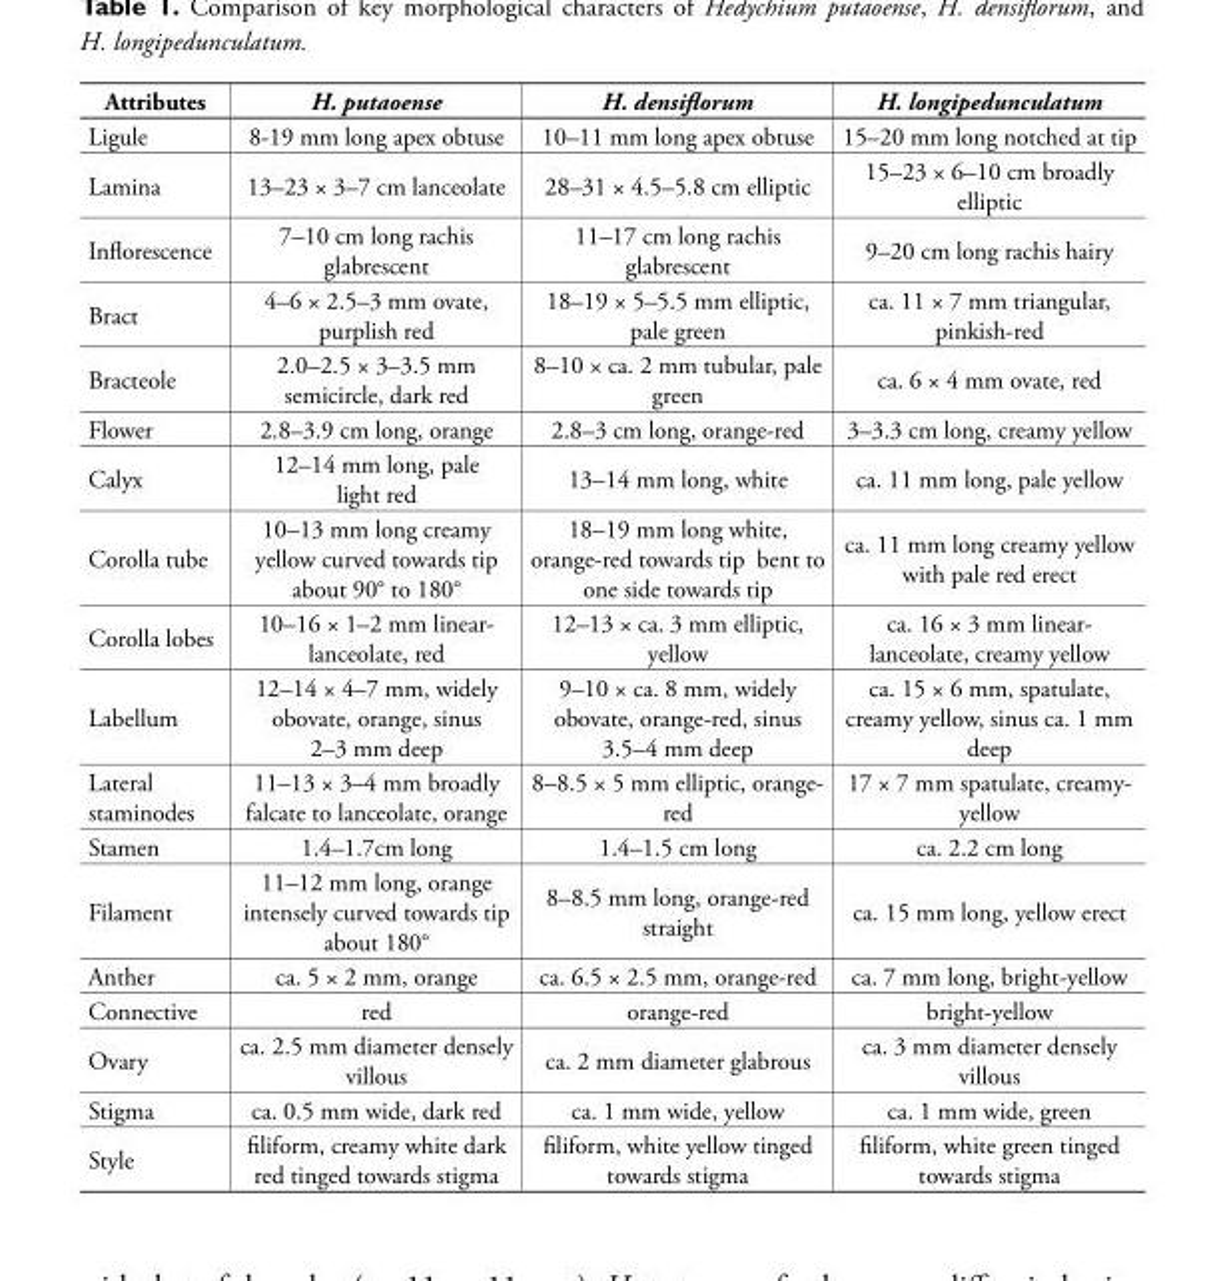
<table><thead><tr><td>Attributes</td><td>H. putaoense</td><td>H. densiflorum</td><td>H. longipedunculatum</td></tr></thead><tbody><tr><td>Ligule</td><td>8-19 mm long apex obtuse</td><td>10–11 mm long apex obtuse</td><td>15–20 mm long notched at tip</td></tr><tr><td>Lamina</td><td>13–23 × 3–7 cm lanceolate</td><td>28–31 × 4.5–5.8 cm elliptic</td><td>15–23 × 6–10 cm broadly elliptic</td></tr><tr><td>Inflorescence</td><td>7–10 cm long rachis glabrescent</td><td>11–17 cm long rachis glabrescent</td><td>9–20 cm long rachis hairy</td></tr><tr><td>Bract</td><td>4–6 × 2.5–3 mm ovate, purplish red</td><td>18–19 × 5–5.5 mm elliptic, pale green</td><td>ca. 11 × 7 mm triangular, pinkish-red</td></tr><tr><td>Bracteole</td><td>2.0–2.5 × 3–3.5 mm semicircle, dark red</td><td>8–10 × ca. 2 mm tubular, pale green</td><td>ca. 6 × 4 mm ovate, red</td></tr><tr><td>Flower</td><td>2.8–3.9 cm long, orange</td><td>2.8–3 cm long, orange-red</td><td>3–3.3 cm long, creamy yellow</td></tr><tr><td>Calyx</td><td>12–14 mm long, pale light red</td><td>13–14 mm long, white</td><td>ca. 11 mm long, pale yellow</td></tr><tr><td>Corolla tube</td><td>10–13 mm long creamy yellow curved towards tip about 90° to 180°</td><td>18–19 mm long white, orange-red towards tip bent to one side towards tip</td><td>ca. 11 mm long creamy yellow with pale red erect</td></tr><tr><td>Corolla lobes</td><td>10–16 × 1–2 mm linear- lanceolate, red</td><td>12–13 × ca. 3 mm elliptic, yellow</td><td>ca. 16 × 3 mm linear- lanceolate, creamy yellow</td></tr><tr><td>Labellum</td><td>12–14 × 4–7 mm, widely obovate, orange, sinus 2–3 mm deep</td><td>9–10 × ca. 8 mm, widely obovate, orange-red, sinus 3.5–4 mm deep</td><td>ca. 15 × 6 mm, spatulate, creamy yellow, sinus ca. 1 mm deep</td></tr><tr><td>Lateral staminodes</td><td>11–13 × 3–4 mm broadly falcate to lanceolate, orange</td><td>8–8.5 × 5 mm elliptic, orange- red</td><td>17 × 7 mm spatulate, creamy- yellow</td></tr><tr><td>Stamen</td><td>1.4–1.7cm long</td><td>1.4–1.5 cm long</td><td>ca. 2.2 cm long</td></tr><tr><td>Filament</td><td>11–12 mm long, orange intensely curved towards tip about 180°</td><td>8–8.5 mm long, orange-red straight</td><td>ca. 15 mm long, yellow erect</td></tr><tr><td>Anther</td><td>ca. 5 × 2 mm, orange</td><td>ca. 6.5 × 2.5 mm, orange-red</td><td>ca. 7 mm long, bright-yellow</td></tr><tr><td>Connective</td><td>red</td><td>orange-red</td><td>bright-yellow</td></tr><tr><td>Ovary</td><td>ca. 2.5 mm diameter densely villous</td><td>ca. 2 mm diameter glabrous</td><td>ca. 3 mm diameter densely villous</td></tr><tr><td>Stigma</td><td>ca. 0.5 mm wide, dark red</td><td>ca. 1 mm wide, yellow</td><td>ca. 1 mm wide, green</td></tr><tr><td>Style</td><td>filiform, creamy white dark red tinged towards stigma</td><td>filiform, white yellow tinged towards stigma</td><td>filiform, white green tinged towards stigma</td></tr></tbody></table>